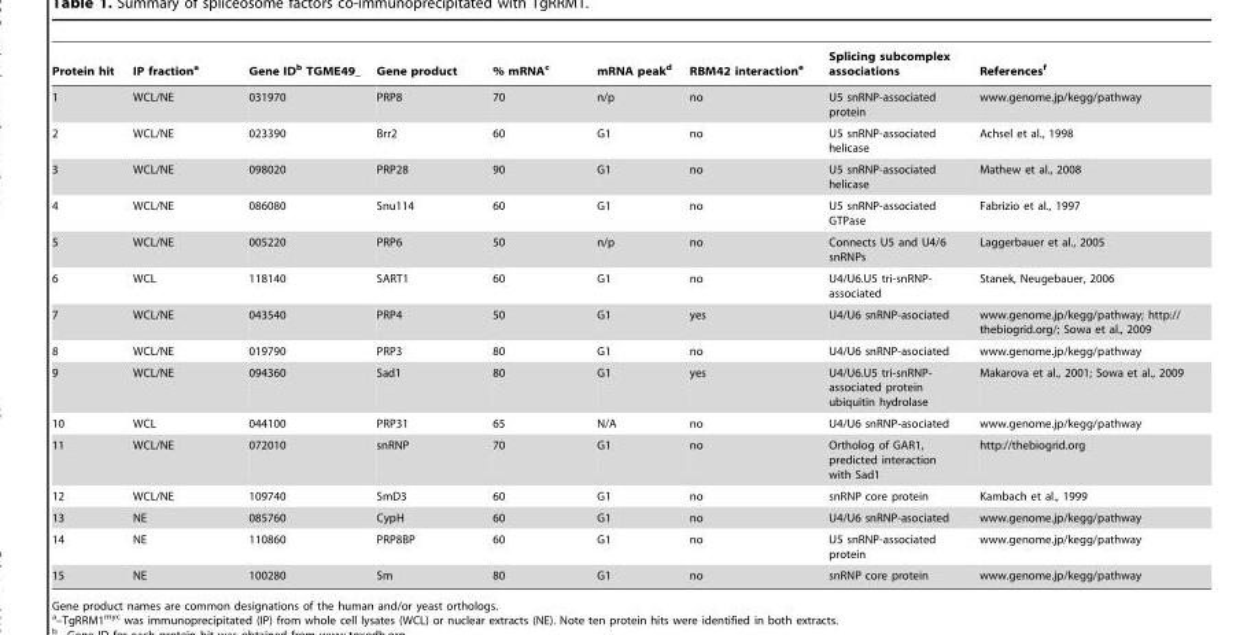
<table><thead><tr><td>Protein hit</td><td>IP fraction<sup>a</sup></td><td>Gene ID<sup>b</sup> TGME49_</td><td>Gene product</td><td>% mRNA<sup>c</sup></td><td>mRNA peak<sup>d</sup></td><td>RBM42 interaction<sup>e</sup></td><td>Splicing subcomplex associations</td><td>References<sup>f</sup></td></tr></thead><tbody><tr><td>1</td><td>WCL/NE</td><td>031970</td><td>PRP8</td><td>70</td><td>n/p</td><td>no</td><td>U5 snRNP-associated protein</td><td>www.genome.jp/kegg/pathway</td></tr><tr><td>2</td><td>WCL/NE</td><td>023390</td><td>Brr2</td><td>60</td><td>G1</td><td>no</td><td>U5 snRNP-associated helicase</td><td>Achsel et al., 1998</td></tr><tr><td>3</td><td>WCL/NE</td><td>098020</td><td>PRP28</td><td>90</td><td>G1</td><td>no</td><td>U5 snRNP-associated helicase</td><td>Mathew et al., 2008</td></tr><tr><td>4</td><td>WCL/NE</td><td>086080</td><td>Snu114</td><td>60</td><td>G1</td><td>no</td><td>U5 snRNP-associated GTPase</td><td>Fabrizio et al., 1997</td></tr><tr><td>5</td><td>WCL/NE</td><td>005220</td><td>PRP6</td><td>50</td><td>n/p</td><td>no</td><td>Connects U5 and U4/6 snRNPs</td><td>Laggerbauer et al., 2005</td></tr><tr><td>6</td><td>WCL</td><td>118140</td><td>SART1</td><td>60</td><td>G1</td><td>no</td><td>U4/U6.U5 tri-snRNP- associated</td><td>Stanek, Neugebauer, 2006</td></tr><tr><td>7</td><td>WCL/NE</td><td>043540</td><td>PRP4</td><td>50</td><td>G1</td><td>yes</td><td>U4/U6 snRNP-asociated</td><td>www.genome.jp/kegg/pathway; http:// thebiogrid.org/; Sowa et al., 2009</td></tr><tr><td>8</td><td>WCL/NE</td><td>019790</td><td>PRP3</td><td>80</td><td>G1</td><td>no</td><td>U4/U6 snRNP-asociated</td><td>www.genome.jp/kegg/pathway</td></tr><tr><td>9</td><td>WCL/NE</td><td>094360</td><td>Sad1</td><td>80</td><td>G1</td><td>yes</td><td>U4/U6.U5 tri-snRNP- associated protein ubiquitin hydrolase</td><td>Makarova et al., 2001; Sowa et al., 2009</td></tr><tr><td>10</td><td>WCL</td><td>044100</td><td>PRP31</td><td>65</td><td>N/A</td><td>no</td><td>U4/U6 snRNP-asociated</td><td>www.genome.jp/kegg/pathway</td></tr><tr><td>11</td><td>WCL/NE</td><td>072010</td><td>snRNP</td><td>70</td><td>G1</td><td>no</td><td>Ortholog of GAR1, predicted interaction with Sad1</td><td>http://thebiogrid.org</td></tr><tr><td>12</td><td>WCL/NE</td><td>109740</td><td>SmD3</td><td>60</td><td>G1</td><td>no</td><td>snRNP core protein</td><td>Kambach et al., 1999</td></tr><tr><td>13</td><td>NE</td><td>085760</td><td>CypH</td><td>60</td><td>G1</td><td>no</td><td>U4/U6 snRNP-asociated</td><td>www.genome.jp/kegg/pathway</td></tr><tr><td>14</td><td>NE</td><td>110860</td><td>PRP8BP</td><td>60</td><td>G1</td><td>no</td><td>U5 snRNP-associated protein</td><td>www.genome.jp/kegg/pathway</td></tr><tr><td>15</td><td>NE</td><td>100280</td><td>Sm</td><td>80</td><td>G1</td><td>no</td><td>snRNP core protein</td><td>www.genome.jp/kegg/pathway</td></tr></tbody></table>